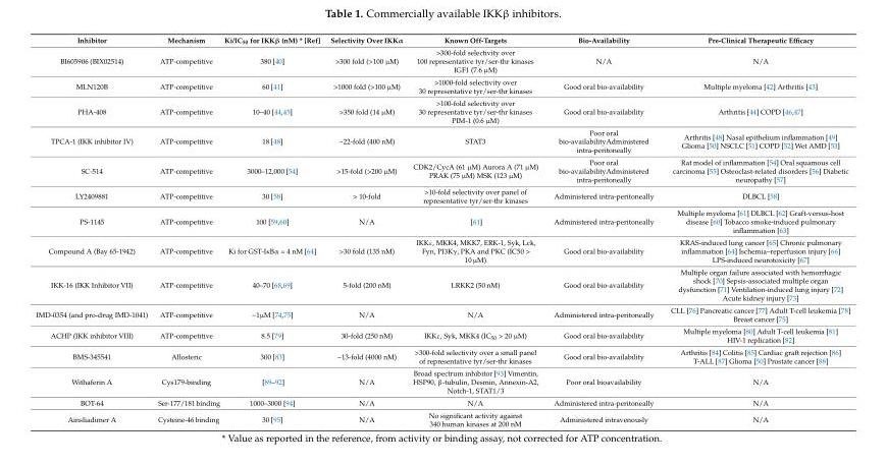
<table><thead><tr><td>Inhibitor</td><td>Mechanism</td><td>Ki/IC<sub>50</sub> for IKKβ (nM) * [Ref]</td><td>Selectivity Over IKKα</td><td>Known Off-Targets</td><td>Bio-Availability</td><td>Pre-Clinical Therapeutic Efficacy</td></tr></thead><tbody><tr><td>BI605906 (BIX02514)</td><td>ATP-competitive</td><td>380 [40]</td><td>&gt;300 fold (&gt;100 µM)</td><td>&gt;300-fold selectivity over 100 representative tyr/ser-thr kinases IGF1 (7.6 µM)</td><td>N/A</td><td>N/A</td></tr><tr><td>MLN120B</td><td>ATP-competitive</td><td>60 [41]</td><td>&gt;1000 fold (&gt;100 µM)</td><td>&gt;1000-fold selectivity over 30 representative tyr/ser-thr kinases</td><td>Good oral bio-availability</td><td>Multiple myeloma [42] Arthritis [43]</td></tr><tr><td>PHA-408</td><td>ATP-competitive</td><td>10–40 [44,45]</td><td>&gt;350 fold (14 µM)</td><td>&gt;100-fold selectivity over 30 representative tyr/ser-thr kinases PIM-1 (0.6 µM)</td><td>Good oral bio-availability</td><td>Arthritis [44] COPD [46,47]</td></tr><tr><td>TPCA-1 (IKK inhibitor IV)</td><td>ATP-competitive</td><td>18 [48]</td><td>~22-fold (400 nM)</td><td>STAT3</td><td>Poor oral bio-availabilityAdministered intra-peritoneally</td><td>Arthritis [48] Nasal epithelium inflammation [49] Glioma [50] NSCLC [51] COPD [52] Wet AMD [53]</td></tr><tr><td>SC-514</td><td>ATP-competitive</td><td>3000–12,000 [54]</td><td>&gt;15-fold (&gt;200 µM)</td><td>CDK2/CycA (61 µM) Aurora A (71 µM) PRAK (75 µM) MSK (123 µM)</td><td>Poor oral bio-availabilityAdministered intra-peritoneally</td><td>Rat model of inflammation [54] Oral squamous cell carcinoma [55] Osteoclast-related disorders [56] Diabetic neuropathy [57]</td></tr><tr><td>LY2409881</td><td>ATP-competitive</td><td>30 [58]</td><td>&gt; 10-fold</td><td>&gt;10-fold selectivity over panel of representative tyr/ser-thr kinases</td><td>Administered intra-peritoneally</td><td>DLBCL [58]</td></tr><tr><td>PS-1145</td><td>ATP-competitive</td><td>100 [59,60]</td><td>N/A</td><td>[61]</td><td>Administered intra-peritoneally</td><td>Multiple myeloma [61] DLBCL [62] Graft-versus-host disease [60] Tobacco smoke-induced pulmonary inflammation [63]</td></tr><tr><td>Compound A (Bay 65-1942)</td><td>ATP-competitive</td><td>Ki for GST-IκBα = 4 nM [64]</td><td>&gt;30 fold (135 nM)</td><td>IKKε, MKK4, MKK7, ERK-1, Syk, Lck, Fyn, PI3Kγ, PKA and PKC (IC50 &gt; 10 µM)</td><td>Good oral bio-availability</td><td>KRAS-induced lung cancer [65] Chronic pulmonary inflammation [64] Ischemia–reperfusion injury [66] LPS-induced neurotoxicity [67]</td></tr><tr><td>IKK-16 (IKK Inhibitor VII)</td><td>ATP-competitive</td><td>40–70 [68,69]</td><td>5-fold (200 nM)</td><td>LRKK2 (50 nM)</td><td>Good oral bio-availability</td><td>Multiple organ failure associated with hemorrhagic shock [70] Sepsis-associated multiple organ dysfunction [71] Ventilation-induced lung injury [72] Acute kidney injury [73]</td></tr><tr><td>IMD-0354 (and pro-drug IMD-1041)</td><td>ATP-competitive</td><td>~1µM [74,75]</td><td>N/A</td><td>N/A</td><td>Administered intra-peritoneally</td><td>CLL [76] Pancreatic cancer [77] Adult T-cell leukemia [78] Breast cancer [75]</td></tr><tr><td>ACHP (IKK inhibitor VIII)</td><td>ATP-competitive</td><td>8.5 [79]</td><td>30-fold (250 nM)</td><td>IKKε, Syk, MKK4 (IC<sub>50</sub> &gt; 20 µM)</td><td>Good oral bio-availability</td><td>Multiple myeloma [80] Adult T-cell leukemia [81] HIV-1 replication [82]</td></tr><tr><td>BMS-345541</td><td>Allosteric</td><td>300 [83]</td><td>~13-fold (4000 nM)</td><td>&gt;300-fold selectivity over a small panel of representative tyr/ser-thr kinases</td><td>Good oral bio-availability</td><td>Arthritis [84] Colitis [85] Cardiac graft rejection [86] T-ALL [87] Glioma [50] Prostate cancer [88]</td></tr><tr><td>Withaferin A</td><td>Cys179-binding</td><td>[89–92]</td><td>N/A</td><td>Broad spectrum inhibitor [93] Vimentin, HSP90, β-tubulin, Desmin, Annexin-A2, Notch-1, STAT1/3</td><td>Poor oral bioavailability</td><td>N/A</td></tr><tr><td>BOT-64</td><td>Ser-177/181 binding</td><td>1000–3000 [94]</td><td>N/A</td><td>N/A</td><td>Administered intra-peritoneally</td><td>N/A</td></tr><tr><td>Ainsliadimer A</td><td>Cysteine-46 binding</td><td>30 [95]</td><td>N/A</td><td>No significant activity against 340 human kinases at 200 nM</td><td>Administered intravenously</td><td>N/A</td></tr></tbody></table>